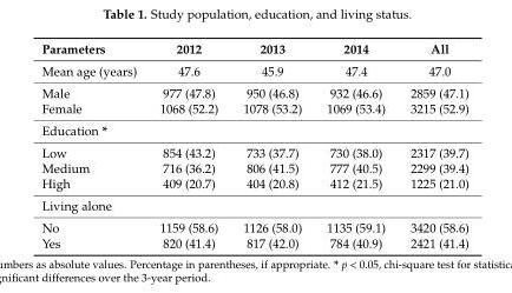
<table><thead><tr><td>Parameters</td><td>2012</td><td>2013</td><td>2014</td><td>All</td></tr></thead><tbody><tr><td>Mean age (years)</td><td>47.6</td><td>45.9</td><td>47.4</td><td>47.0</td></tr><tr><td>Male</td><td>977 (47.8)</td><td>950 (46.8)</td><td>932 (46.6)</td><td>2859 (47.1)</td></tr><tr><td>Female</td><td>1068 (52.2)</td><td>1078 (53.2)</td><td>1069 (53.4)</td><td>3215 (52.9)</td></tr><tr><td colspan="5">Education *</td></tr><tr><td>Low</td><td>854 (43.2)</td><td>733 (37.7)</td><td>730 (38.0)</td><td>2317 (39.7)</td></tr><tr><td>Medium</td><td>716 (36.2)</td><td>806 (41.5)</td><td>777 (40.5)</td><td>2299 (39.4)</td></tr><tr><td>High</td><td>409 (20.7)</td><td>404 (20.8)</td><td>412 (21.5)</td><td>1225 (21.0)</td></tr><tr><td colspan="5">Living alone</td></tr><tr><td>No</td><td>1159 (58.6)</td><td>1126 (58.0)</td><td>1135 (59.1)</td><td>3420 (58.6)</td></tr><tr><td>Yes</td><td>820 (41.4)</td><td>817 (42.0)</td><td>784 (40.9)</td><td>2421 (41.4)</td></tr></tbody></table>